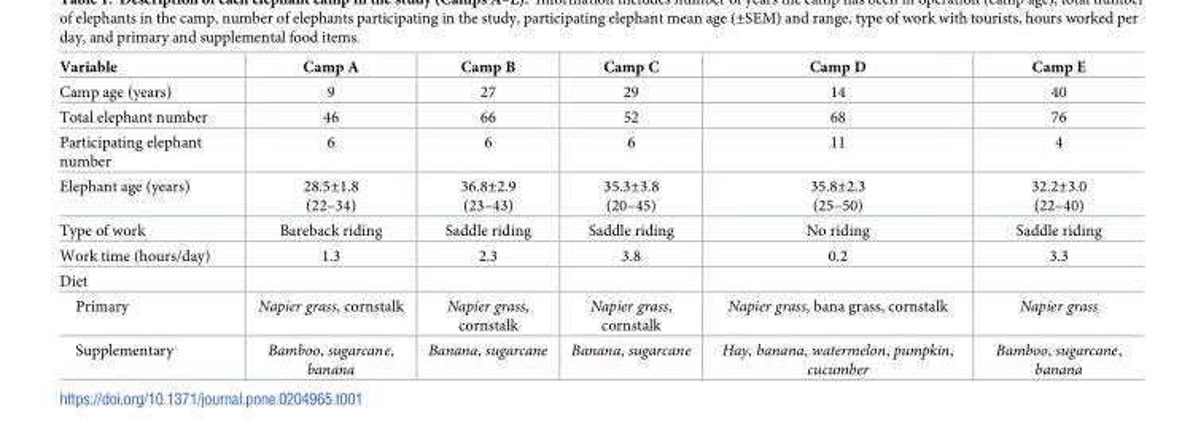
<table><thead><tr><td>Variable</td><td>Camp A</td><td>Camp B</td><td>Camp C</td><td>Camp D</td><td>Camp E</td></tr></thead><tbody><tr><td>Camp age (years)</td><td>9</td><td>27</td><td>29</td><td>14</td><td>40</td></tr><tr><td>Total elephant number</td><td>46</td><td>66</td><td>52</td><td>68</td><td>76</td></tr><tr><td>Participating elephant number</td><td>6</td><td>6</td><td>6</td><td>11</td><td>4</td></tr><tr><td>Elephant age (years)</td><td>28.5±1.8 (22–34)</td><td>36.8±2.9 (23–43)</td><td>35.3±3.8 (20–45)</td><td>35.8±2.3 (25–50)</td><td>32.2±3.0 (22–40)</td></tr><tr><td>Type of work</td><td>Bareback riding</td><td>Saddle riding</td><td>Saddle riding</td><td>No riding</td><td>Saddle riding</td></tr><tr><td>Work time (hours/day)</td><td>1.3</td><td>2.3</td><td>3.8</td><td>0.2</td><td>3.3</td></tr><tr><td colspan="6">Diet</td></tr><tr><td>Primary</td><td>Napier grass, cornstalk</td><td>Napier grass, cornstalk</td><td>Napier grass, cornstalk</td><td>Napier grass, bana grass, cornstalk</td><td>Napier grass</td></tr><tr><td>Supplementary</td><td>Bamboo, sugarcane, banana</td><td>Banana, sugarcane</td><td>Banana, sugarcane</td><td>Hay, banana, watermelon, pumpkin, cucumber</td><td>Bamboo, sugarcane, banana</td></tr></tbody></table>